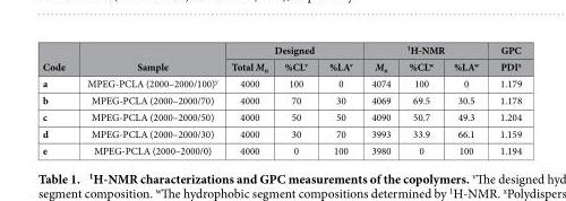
<table><thead><tr><td rowspan="2">Code</td><td rowspan="2">Sample</td><td colspan="3">Designed</td><td colspan="3"><sup>1</sup>H-NMR</td><td rowspan="2">GPC PDI<sup>x</sup></td></tr><tr><td>Total M<sub>n</sub></td><td>%CL<sup>v</sup></td><td>%LA<sup>v</sup></td><td>M<sub>n</sub></td><td>%CL<sup>w</sup></td><td>%LA<sup>w</sup></td></tr></thead><tbody><tr><td>a</td><td>MPEG-PCLA (2000–2000/100)<sup>y</sup></td><td>4000</td><td>100</td><td>0</td><td>4074</td><td>100</td><td>0</td><td>1.179</td></tr><tr><td>b</td><td>MPEG-PCLA (2000–2000/70)</td><td>4000</td><td>70</td><td>30</td><td>4069</td><td>69.5</td><td>30.5</td><td>1.178</td></tr><tr><td>c</td><td>MPEG-PCLA (2000–2000/50)</td><td>4000</td><td>50</td><td>50</td><td>4090</td><td>50.7</td><td>49.3</td><td>1.204</td></tr><tr><td>d</td><td>MPEG-PCLA (2000–2000/30)</td><td>4000</td><td>30</td><td>70</td><td>3993</td><td>33.9</td><td>66.1</td><td>1.159</td></tr><tr><td>e</td><td>MPEG-PCLA (2000–2000/0)</td><td>4000</td><td>0</td><td>100</td><td>3980</td><td>0</td><td>100</td><td>1.194</td></tr></tbody></table>